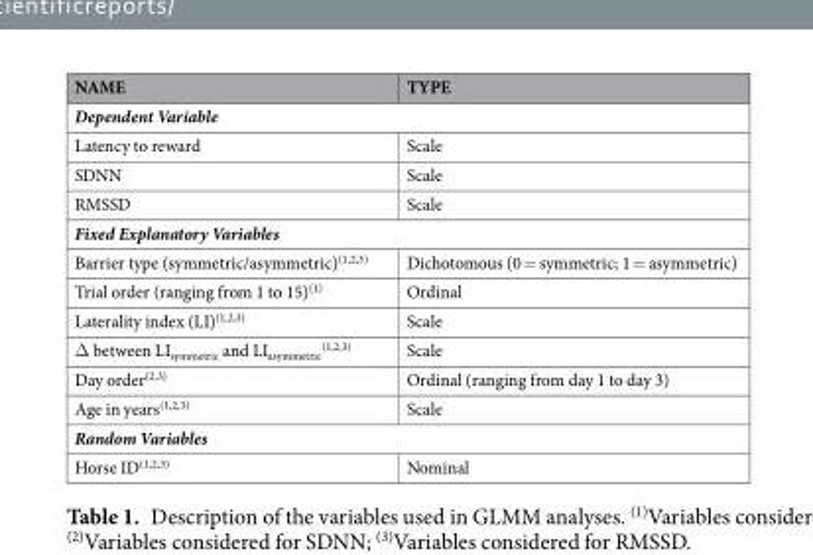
<table><thead><tr><td>NAME</td><td>TYPE</td></tr></thead><tbody><tr><td colspan="2">Dependent Variable</td></tr><tr><td>Latency to reward</td><td>Scale</td></tr><tr><td>SDNN</td><td>Scale</td></tr><tr><td>RMSSD</td><td>Scale</td></tr><tr><td colspan="2">Fixed Explanatory Variables</td></tr><tr><td>Barrier type (symmetric/asymmetric)<sup>(1,2,3)</sup></td><td>Dichotomous (0 = symmetric; 1 = asymmetric)</td></tr><tr><td>Trial order (ranging from 1 to 15)<sup>(1)</sup></td><td>Ordinal</td></tr><tr><td>Laterality index (LI)<sup>(1,2,3)</sup></td><td>Scale</td></tr><tr><td>Δ between LI<sub>symmetric</sub> and LI<sub>asymmetric</sub> <sup>(1,2,3)</sup></td><td>Scale</td></tr><tr><td>Day order<sup>(2,3)</sup></td><td>Ordinal (ranging from day 1 to day 3)</td></tr><tr><td>Age in years<sup>(1,2,3)</sup></td><td>Scale</td></tr><tr><td colspan="2">Random Variables</td></tr><tr><td>Horse ID<sup>(1,2,3)</sup></td><td>Nominal</td></tr></tbody></table>